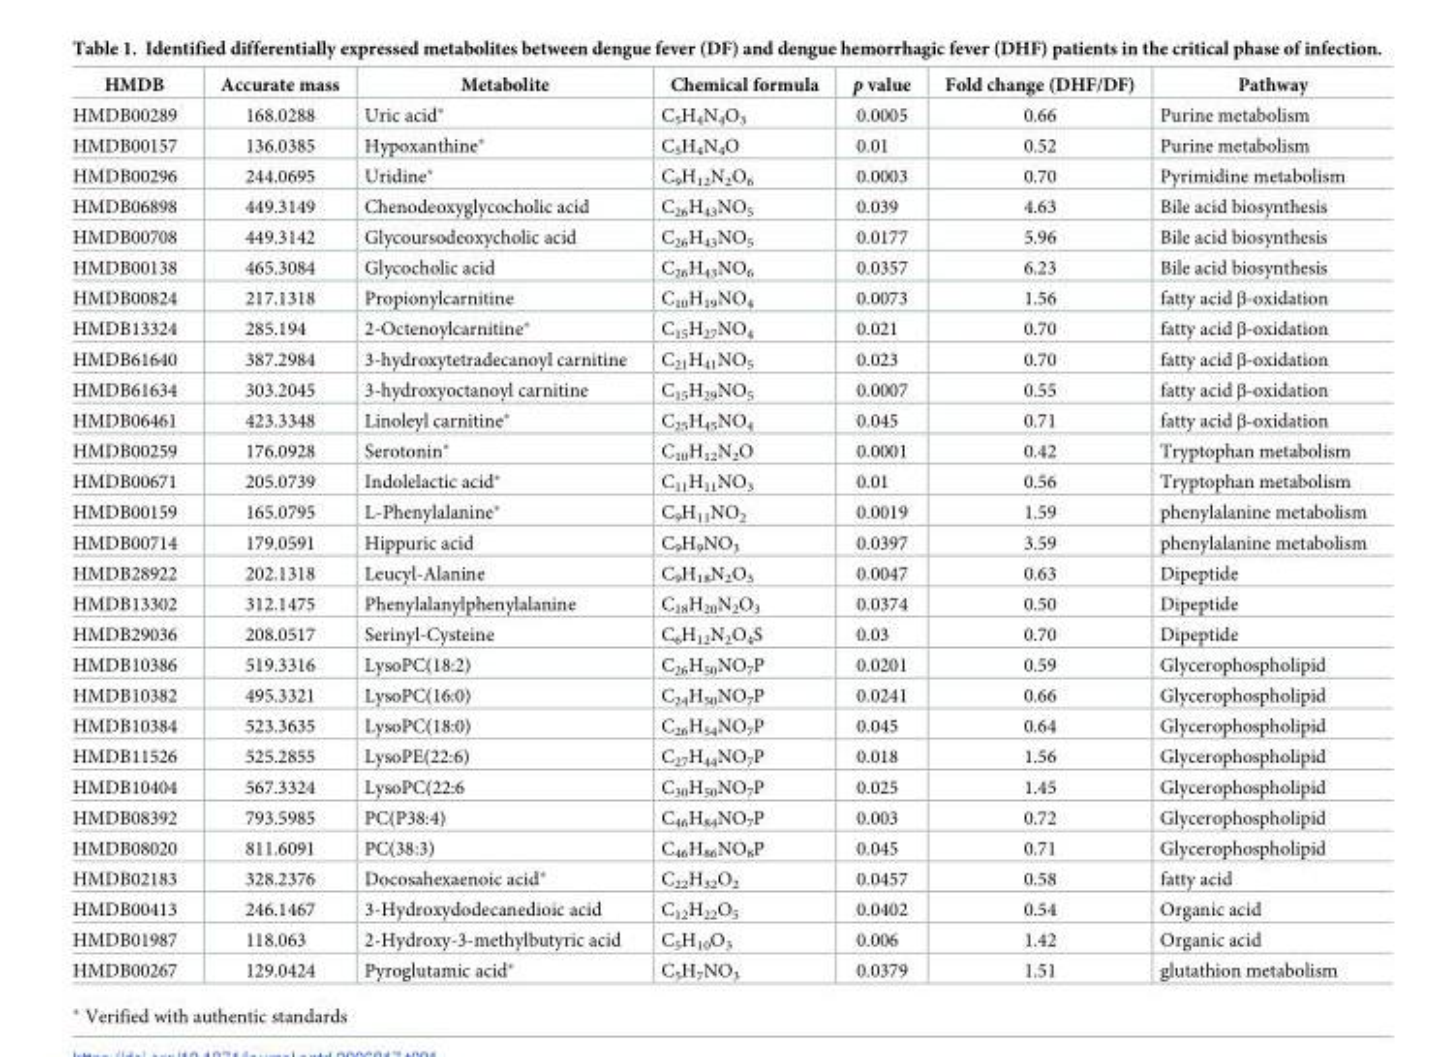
<table><thead><tr><td>HMDB</td><td>Accurate mass</td><td>Metabolite</td><td>Chemical formula</td><td>p value</td><td>Fold change (DHF/DF)</td><td>Pathway</td></tr></thead><tbody><tr><td>HMDB00289</td><td>168.0288</td><td>Uric acid*</td><td>C<sub>5</sub>H<sub>4</sub>N<sub>4</sub>O<sub>3</sub></td><td>0.0005</td><td>0.66</td><td>Purine metabolism</td></tr><tr><td>HMDB00157</td><td>136.0385</td><td>Hypoxanthine*</td><td>C<sub>5</sub>H<sub>4</sub>N<sub>4</sub>O</td><td>0.01</td><td>0.52</td><td>Purine metabolism</td></tr><tr><td>HMDB00296</td><td>244.0695</td><td>Uridine*</td><td>C<sub>9</sub>H<sub>12</sub>N<sub>2</sub>O<sub>6</sub></td><td>0.0003</td><td>0.70</td><td>Pyrimidine metabolism</td></tr><tr><td>HMDB06898</td><td>449.3149</td><td>Chenodeoxyglycocholic acid</td><td>C<sub>26</sub>H<sub>43</sub>NO<sub>5</sub></td><td>0.039</td><td>4.63</td><td>Bile acid biosynthesis</td></tr><tr><td>HMDB00708</td><td>449.3142</td><td>Glycoursodeoxycholic acid</td><td>C<sub>26</sub>H<sub>43</sub>NO<sub>5</sub></td><td>0.0177</td><td>5.96</td><td>Bile acid biosynthesis</td></tr><tr><td>HMDB00138</td><td>465.3084</td><td>Glycocholic acid</td><td>C<sub>26</sub>H<sub>43</sub>NO<sub>6</sub></td><td>0.0357</td><td>6.23</td><td>Bile acid biosynthesis</td></tr><tr><td>HMDB00824</td><td>217.1318</td><td>Propionylcarnitine</td><td>C<sub>10</sub>H<sub>19</sub>NO<sub>4</sub></td><td>0.0073</td><td>1.56</td><td>fatty acid β-oxidation</td></tr><tr><td>HMDB13324</td><td>285.194</td><td>2-Octenoylcarnitine*</td><td>C<sub>15</sub>H<sub>27</sub>NO<sub>4</sub></td><td>0.021</td><td>0.70</td><td>fatty acid β-oxidation</td></tr><tr><td>HMDB61640</td><td>387.2984</td><td>3-hydroxytetradecanoyl carnitine</td><td>C<sub>21</sub>H<sub>41</sub>NO<sub>5</sub></td><td>0.023</td><td>0.70</td><td>fatty acid β-oxidation</td></tr><tr><td>HMDB61634</td><td>303.2045</td><td>3-hydroxyoctanoyl carnitine</td><td>C<sub>15</sub>H<sub>29</sub>NO<sub>5</sub></td><td>0.0007</td><td>0.55</td><td>fatty acid β-oxidation</td></tr><tr><td>HMDB06461</td><td>423.3348</td><td>Linoleyl carnitine*</td><td>C<sub>25</sub>H<sub>45</sub>NO<sub>4</sub></td><td>0.045</td><td>0.71</td><td>fatty acid β-oxidation</td></tr><tr><td>HMDB00259</td><td>176.0928</td><td>Serotonin*</td><td>C<sub>10</sub>H<sub>12</sub>N<sub>2</sub>O</td><td>0.0001</td><td>0.42</td><td>Tryptophan metabolism</td></tr><tr><td>HMDB00671</td><td>205.0739</td><td>Indolelactic acid*</td><td>C<sub>11</sub>H<sub>11</sub>NO<sub>3</sub></td><td>0.01</td><td>0.56</td><td>Tryptophan metabolism</td></tr><tr><td>HMDB00159</td><td>165.0795</td><td>L-Phenylalanine*</td><td>C<sub>9</sub>H<sub>11</sub>NO<sub>2</sub></td><td>0.0019</td><td>1.59</td><td>phenylalanine metabolism</td></tr><tr><td>HMDB00714</td><td>179.0591</td><td>Hippuric acid</td><td>C<sub>9</sub>H<sub>9</sub>NO<sub>3</sub></td><td>0.0397</td><td>3.59</td><td>phenylalanine metabolism</td></tr><tr><td>HMDB28922</td><td>202.1318</td><td>Leucyl-Alanine</td><td>C<sub>9</sub>H<sub>18</sub>N<sub>2</sub>O<sub>3</sub></td><td>0.0047</td><td>0.63</td><td>Dipeptide</td></tr><tr><td>HMDB13302</td><td>312.1475</td><td>Phenylalanylphenylalanine</td><td>C<sub>18</sub>H<sub>20</sub>N<sub>2</sub>O<sub>3</sub></td><td>0.0374</td><td>0.50</td><td>Dipeptide</td></tr><tr><td>HMDB29036</td><td>208.0517</td><td>Serinyl-Cysteine</td><td>C<sub>6</sub>H<sub>12</sub>N<sub>2</sub>O<sub>4</sub>S</td><td>0.03</td><td>0.70</td><td>Dipeptide</td></tr><tr><td>HMDB10386</td><td>519.3316</td><td>LysoPC(18:2)</td><td>C<sub>26</sub>H<sub>50</sub>NO<sub>7</sub>P</td><td>0.0201</td><td>0.59</td><td>Glycerophospholipid</td></tr><tr><td>HMDB10382</td><td>495.3321</td><td>LysoPC(16:0)</td><td>C<sub>24</sub>H<sub>50</sub>NO<sub>7</sub>P</td><td>0.0241</td><td>0.66</td><td>Glycerophospholipid</td></tr><tr><td>HMDB10384</td><td>523.3635</td><td>LysoPC(18:0)</td><td>C<sub>26</sub>H<sub>54</sub>NO<sub>7</sub>P</td><td>0.045</td><td>0.64</td><td>Glycerophospholipid</td></tr><tr><td>HMDB11526</td><td>525.2855</td><td>LysoPE(22:6)</td><td>C<sub>27</sub>H<sub>44</sub>NO<sub>7</sub>P</td><td>0.018</td><td>1.56</td><td>Glycerophospholipid</td></tr><tr><td>HMDB10404</td><td>567.3324</td><td>LysoPC(22:6</td><td>C<sub>30</sub>H<sub>50</sub>NO<sub>7</sub>P</td><td>0.025</td><td>1.45</td><td>Glycerophospholipid</td></tr><tr><td>HMDB08392</td><td>793.5985</td><td>PC(P38:4)</td><td>C<sub>46</sub>H<sub>84</sub>NO<sub>7</sub>P</td><td>0.003</td><td>0.72</td><td>Glycerophospholipid</td></tr><tr><td>HMDB08020</td><td>811.6091</td><td>PC(38:3)</td><td>C<sub>46</sub>H<sub>86</sub>NO<sub>8</sub>P</td><td>0.045</td><td>0.71</td><td>Glycerophospholipid</td></tr><tr><td>HMDB02183</td><td>328.2376</td><td>Docosahexaenoic acid*</td><td>C<sub>22</sub>H<sub>32</sub>O<sub>2</sub></td><td>0.0457</td><td>0.58</td><td>fatty acid</td></tr><tr><td>HMDB00413</td><td>246.1467</td><td>3-Hydroxydodecanedioic acid</td><td>C<sub>12</sub>H<sub>22</sub>O<sub>5</sub></td><td>0.0402</td><td>0.54</td><td>Organic acid</td></tr><tr><td>HMDB01987</td><td>118.063</td><td>2-Hydroxy-3-methylbutyric acid</td><td>C<sub>5</sub>H<sub>10</sub>O<sub>3</sub></td><td>0.006</td><td>1.42</td><td>Organic acid</td></tr><tr><td>HMDB00267</td><td>129.0424</td><td>Pyroglutamic acid*</td><td>C<sub>5</sub>H<sub>7</sub>NO<sub>3</sub></td><td>0.0379</td><td>1.51</td><td>glutathion metabolism</td></tr></tbody></table>